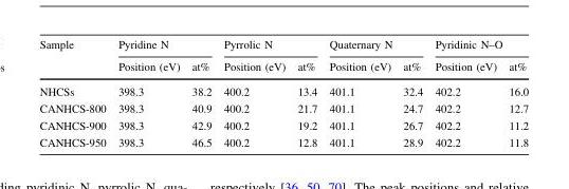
<table><thead><tr><td rowspan="2">Sample</td><td colspan="2">Pyridine N</td><td colspan="2">Pyrrolic N</td><td colspan="2">Quaternary N</td><td colspan="2">Pyridinic N–O</td></tr><tr><td>Position (eV)</td><td>at%</td><td>Position (eV)</td><td>at%</td><td>Position (eV)</td><td>at%</td><td>Position (eV)</td><td>at%</td></tr></thead><tbody><tr><td>NHCSs</td><td>398.3</td><td>38.2</td><td>400.2</td><td>13.4</td><td>401.1</td><td>32.4</td><td>402.2</td><td>16.0</td></tr><tr><td>CANHCS-800</td><td>398.3</td><td>40.9</td><td>400.2</td><td>21.7</td><td>401.1</td><td>24.7</td><td>402.2</td><td>12.7</td></tr><tr><td>CANHCS-900</td><td>398.3</td><td>42.9</td><td>400.2</td><td>19.2</td><td>401.1</td><td>26.7</td><td>402.2</td><td>11.2</td></tr><tr><td>CANHCS-950</td><td>398.3</td><td>46.5</td><td>400.2</td><td>12.8</td><td>401.1</td><td>28.9</td><td>402.2</td><td>11.8</td></tr></tbody></table>